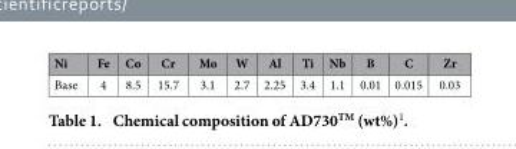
<table><thead><tr><td>Ni</td><td>Fe</td><td>Co</td><td>Cr</td><td>Mo</td><td>W</td><td>Al</td><td>Ti</td><td>Nb</td><td>B</td><td>C</td><td>Zr</td></tr></thead><tbody><tr><td>Base</td><td>4</td><td>8.5</td><td>15.7</td><td>3.1</td><td>2.7</td><td>2.25</td><td>3.4</td><td>1.1</td><td>0.01</td><td>0.015</td><td>0.03</td></tr></tbody></table>